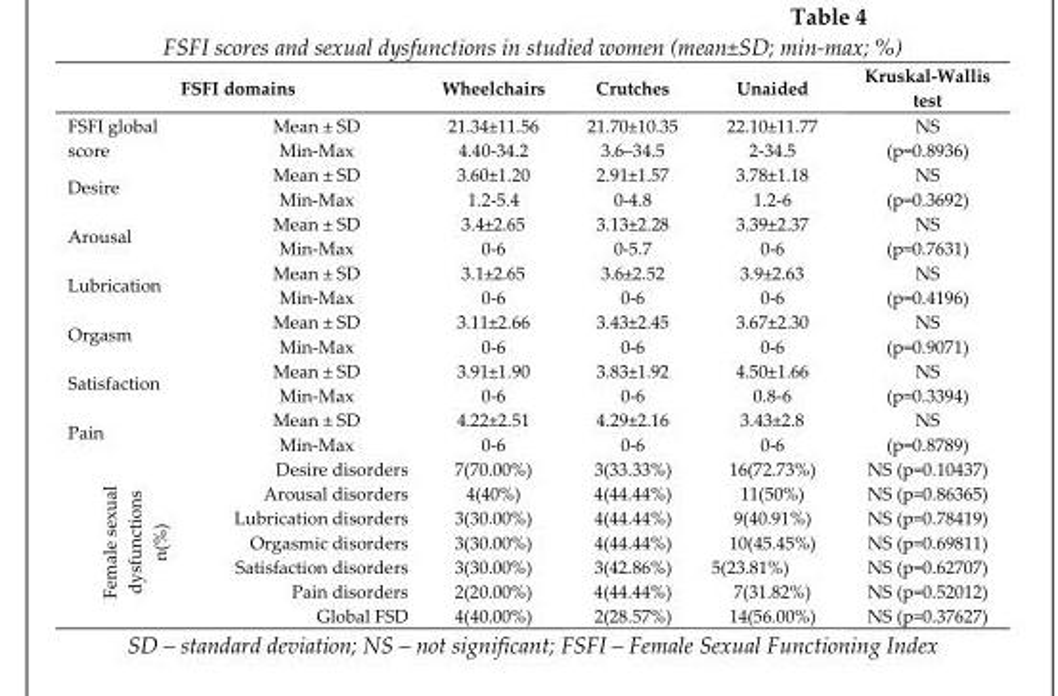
<table><thead><tr><td></td><td>FSFI domains</td><td>Wheelchairs</td><td>Crutches</td><td>Unaided</td><td>Kruskal-Wallis test</td></tr></thead><tbody><tr><td rowspan="2">FSFI global score</td><td>Mean ± SD</td><td>21.34±11.56</td><td>21.70±10.35</td><td>22.10±11.77</td><td rowspan="2">NS (p=0.8936)</td></tr><tr><td>Min-Max</td><td>4.40-34.2</td><td>3.6–34.5</td><td>2-34.5</td></tr><tr><td rowspan="2">Desire</td><td>Mean ± SD</td><td>3.60±1.20</td><td>2.91±1.57</td><td>3.78±1.18</td><td rowspan="2">NS (p=0.3692)</td></tr><tr><td>Min-Max</td><td>1.2-5.4</td><td>0-4.8</td><td>1.2-6</td></tr><tr><td rowspan="2">Arousal</td><td>Mean ± SD</td><td>3.4±2.65</td><td>3.13±2.28</td><td>3.39±2.37</td><td rowspan="2">NS (p=0.7631)</td></tr><tr><td>Min-Max</td><td>0-6</td><td>0-5.7</td><td>0-6</td></tr><tr><td rowspan="2">Lubrication</td><td>Mean ± SD</td><td>3.1±2.65</td><td>3.6±2.52</td><td>3.9±2.63</td><td rowspan="2">NS (p=0.4196)</td></tr><tr><td>Min-Max</td><td>0-6</td><td>0-6</td><td>0-6</td></tr><tr><td rowspan="2">Orgasm</td><td>Mean ± SD</td><td>3.11±2.66</td><td>3.43±2.45</td><td>3.67±2.30</td><td rowspan="2">NS (p=0.9071)</td></tr><tr><td>Min-Max</td><td>0-6</td><td>0-6</td><td>0-6</td></tr><tr><td rowspan="2">Satisfaction</td><td>Mean ± SD</td><td>3.91±1.90</td><td>3.83±1.92</td><td>4.50±1.66</td><td rowspan="2">NS (p=0.3394)</td></tr><tr><td>Min-Max</td><td>0-6</td><td>0-6</td><td>0.8-6</td></tr><tr><td rowspan="2">Pain</td><td>Mean ± SD</td><td>4.22±2.51</td><td>4.29±2.16</td><td>3.43±2.8</td><td rowspan="2">NS (p=0.8789)</td></tr><tr><td>Min-Max</td><td>0-6</td><td>0-6</td><td>0-6</td></tr><tr><td rowspan="7">Female sexual dysfunctions n(%)</td><td>Desire disorders</td><td>7(70.00%)</td><td>3(33.33%)</td><td>16(72.73%)</td><td>NS (p=0.10437)</td></tr><tr><td>Arousal disorders</td><td>4(40%)</td><td>4(44.44%)</td><td>11(50%)</td><td>NS (p=0.86365)</td></tr><tr><td>Lubrication disorders</td><td>3(30.00%)</td><td>4(44.44%)</td><td>9(40.91%)</td><td>NS (p=0.78419)</td></tr><tr><td>Orgasmic disorders</td><td>3(30.00%)</td><td>4(44.44%)</td><td>10(45.45%)</td><td>NS (p=0.69811)</td></tr><tr><td>Satisfaction disorders</td><td>3(30.00%)</td><td>3(42.86%)</td><td>5(23.81%)</td><td>NS (p=0.62707)</td></tr><tr><td>Pain disorders</td><td>2(20.00%)</td><td>4(44.44%)</td><td>7(31.82%)</td><td>NS (p=0.52012)</td></tr><tr><td>Global FSD</td><td>4(40.00%)</td><td>2(28.57%)</td><td>14(56.00%)</td><td>NS (p=0.37627)</td></tr></tbody></table>